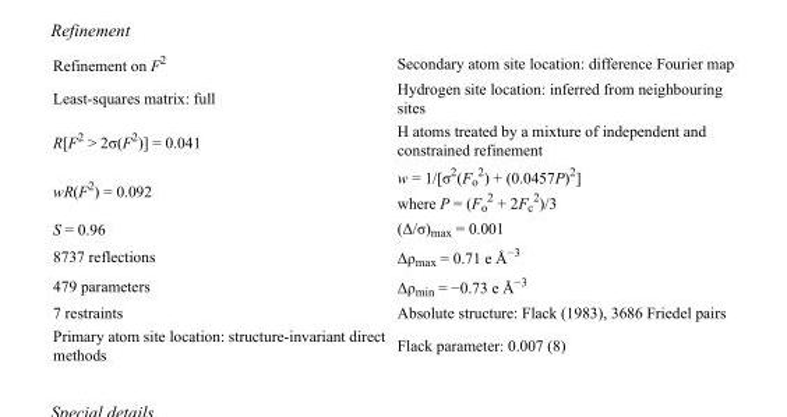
<table><tbody><tr><td>Refinement on F<sup>2</sup></td><td>Secondary atom site location: difference Fourier map</td></tr><tr><td>Least-squares matrix: full</td><td>Hydrogen site location: inferred from neighbouring sites</td></tr><tr><td>R[F<sup>2</sup> &gt; 2σ(F<sup>2</sup>)] = 0.041</td><td>H atoms treated by a mixture of independent and constrained refinement</td></tr><tr><td>wR(F<sup>2</sup>) = 0.092</td><td>w = 1/[σ<sup>2</sup>(F<sub>o</sub> <sup>2</sup>) + (0.0457P)<sup>2</sup>] where P = (F<sub>o</sub> <sup>2</sup> + 2F<sub>c</sub> <sup>2</sup>)/3</td></tr><tr><td>S = 0.96</td><td>(Δ/σ)<sub>max</sub> = 0.001</td></tr><tr><td>8737 reflections</td><td>Δρ<sub>max</sub> = 0.71 e Å<sup>−3</sup></td></tr><tr><td>479 parameters</td><td>Δρ<sub>min</sub> = −0.73 e Å<sup>−3</sup></td></tr><tr><td>7 restraints</td><td>Absolute structure: Flack (1983), 3686 Friedel pairs</td></tr><tr><td>Primary atom site location: structure-invariant direct methods</td><td>Flack parameter: 0.007 (8)</td></tr></tbody></table>